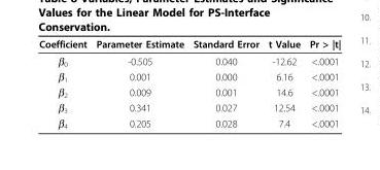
<table><thead><tr><td>Coefficient</td><td>Parameter Estimate</td><td>Standard Error</td><td>t Value</td><td>Pr &gt; |t|</td></tr></thead><tbody><tr><td>β<sub>0</sub></td><td>-0.505</td><td>0.040</td><td>-12.62</td><td>&lt;.0001</td></tr><tr><td>β<sub>1</sub></td><td>0.001</td><td>0.000</td><td>6.16</td><td>&lt;.0001</td></tr><tr><td>β<sub>2</sub></td><td>0.009</td><td>0.001</td><td>14.6</td><td>&lt;.0001</td></tr><tr><td>β<sub>3</sub></td><td>0.341</td><td>0.027</td><td>12.54</td><td>&lt;.0001</td></tr><tr><td>β<sub>4</sub></td><td>0.205</td><td>0.028</td><td>7.4</td><td>&lt;.0001</td></tr></tbody></table>